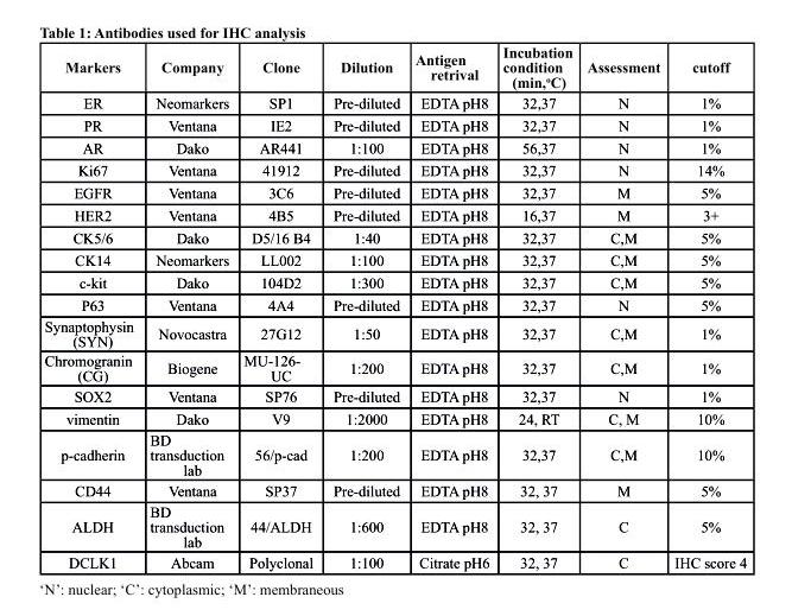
<table><thead><tr><td>Markers</td><td>company</td><td>clone</td><td>dilution</td><td>Antigen retrival</td><td>Incubation condition (min,°c)</td><td>Assessment</td><td>cutoff</td></tr></thead><tbody><tr><td>ER</td><td>Neomarkers</td><td>SP1</td><td>Pre-diluted</td><td>EDTA pH8</td><td>32,37</td><td>N</td><td>1%</td></tr><tr><td>PR</td><td>Ventana</td><td>IE2</td><td>Pre-diluted</td><td>EDTA pH8</td><td>32,37</td><td>N</td><td>1%</td></tr><tr><td>AR</td><td>Dako</td><td>AR441</td><td>1:100</td><td>EDTA pH8</td><td>56,37</td><td>N</td><td>1%</td></tr><tr><td>Ki67</td><td>Ventana</td><td>41912</td><td>Pre-diluted</td><td>EDTA pH8</td><td>32,37</td><td>N</td><td>14%</td></tr><tr><td>EGFR</td><td>Ventana</td><td>3C6</td><td>Pre-diluted</td><td>EDTA pH8</td><td>32,37</td><td>M</td><td>5%</td></tr><tr><td>HER2</td><td>Ventana</td><td>4B5</td><td>Pre-diluted</td><td>EDTA pH8</td><td>16,37</td><td>M</td><td>3+</td></tr><tr><td>CK5/6</td><td>Dako</td><td>D5/16 B4</td><td>1:40</td><td>EDTA pH8</td><td>32,37</td><td>C,M</td><td>5%</td></tr><tr><td>CK14</td><td>Neomarkers</td><td>LL002</td><td>1:100</td><td>EDTA pH8</td><td>32,37</td><td>C,M</td><td>5%</td></tr><tr><td>c-kit</td><td>Dako</td><td>104D2</td><td>1:300</td><td>EDTA pH8</td><td>32,37</td><td>C,M</td><td>5%</td></tr><tr><td>P63</td><td>Ventana</td><td>4A4</td><td>Pre-diluted</td><td>EDTA pH8</td><td>32,37</td><td>N</td><td>5%</td></tr><tr><td>Synaptophysin (SYN)</td><td>Novocastra</td><td>27G12</td><td>1:50</td><td>EDTA pH8</td><td>32,37</td><td>C,M</td><td>1%</td></tr><tr><td>Chromogranin (CG)</td><td>Biogene</td><td>MU-126- UC</td><td>1:200</td><td>EDTA pH8</td><td>32,37</td><td>C,M</td><td>1%</td></tr><tr><td>SOX2</td><td>Ventana</td><td>SP76</td><td>Pre-diluted</td><td>EDTA pH8</td><td>32,37</td><td>N</td><td>1%</td></tr><tr><td>vimentin</td><td>Dako</td><td>V9</td><td>1:2000</td><td>EDTA pH8</td><td>24, RT</td><td>C, M</td><td>10%</td></tr><tr><td>p-cadherin</td><td>BD transduction lab</td><td>56/p-cad</td><td>1:200</td><td>EDTA pH8</td><td>32,37</td><td>C,M</td><td>10%</td></tr><tr><td>CD44</td><td>Ventana</td><td>SP37</td><td>Pre-diluted</td><td>EDTA pH8</td><td>32, 37</td><td>M</td><td>5%</td></tr><tr><td>ALDH</td><td>BD transduction lab</td><td>44/ALDH</td><td>1:600</td><td>EDTA pH8</td><td>32, 37</td><td>C</td><td>5%</td></tr><tr><td>DCLK1</td><td>Abcam</td><td>Polyclonal</td><td>1:100</td><td>Citrate pH6</td><td>32, 37</td><td>C</td><td>IHC score 4</td></tr></tbody></table>